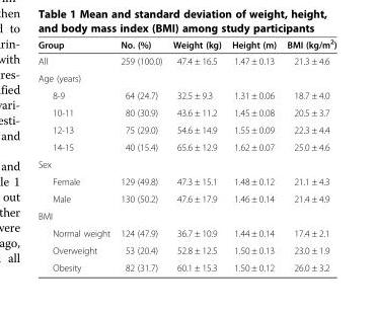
<table><thead><tr><td>Group</td><td>No. (%)</td><td>Weight (kg)</td><td>Height (m)</td><td>BMI (kg/m<sup>2</sup>)</td></tr></thead><tbody><tr><td>All</td><td>259 (100.0)</td><td>47.4 ± 16.5</td><td>1.47 ± 0.13</td><td>21.3 ± 4.6</td></tr><tr><td colspan="5">Age (years)</td></tr><tr><td>8-9</td><td>64 (24.7)</td><td>32.5 ± 9.3</td><td>1.31 ± 0.06</td><td>18.7 ± 4.0</td></tr><tr><td>10-11</td><td>80 (30.9)</td><td>43.6 ± 11.2</td><td>1.45 ± 0.08</td><td>20.5 ± 3.7</td></tr><tr><td>12-13</td><td>75 (29.0)</td><td>54.6 ± 14.9</td><td>1.55 ± 0.09</td><td>22.3 ± 4.4</td></tr><tr><td>14-15</td><td>40 (15.4)</td><td>65.6 ± 12.9</td><td>1.62 ± 0.07</td><td>25.0 ± 4.6</td></tr><tr><td colspan="5">Sex</td></tr><tr><td>Female</td><td>129 (49.8)</td><td>47.3 ± 15.1</td><td>1.48 ± 0.12</td><td>21.1 ± 4.3</td></tr><tr><td>Male</td><td>130 (50.2)</td><td>47.6 ± 17.9</td><td>1.46 ± 0.14</td><td>21.4 ± 4.9</td></tr><tr><td colspan="5">BMI</td></tr><tr><td>Normal weight</td><td>124 (47.9)</td><td>36.7 ± 10.9</td><td>1.44 ± 0.14</td><td>17.4 ± 2.1</td></tr><tr><td>Overweight</td><td>53 (20.4)</td><td>52.8 ± 12.5</td><td>1.50 ± 0.13</td><td>23.0 ± 1.9</td></tr><tr><td>Obesity</td><td>82 (31.7)</td><td>60.1 ± 15.3</td><td>1.50 ± 0.12</td><td>26.0 ± 3.2</td></tr></tbody></table>